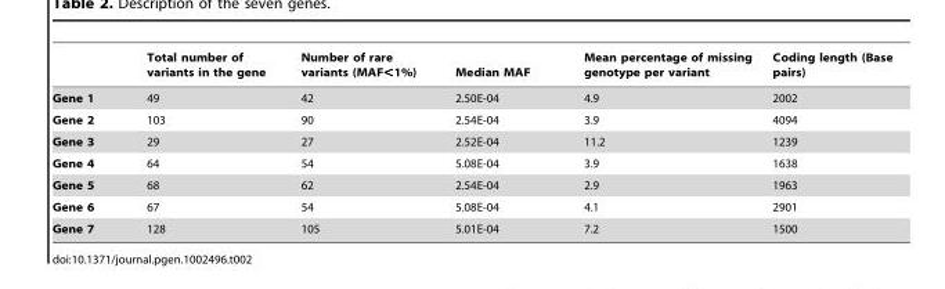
<table><thead><tr><td></td><td>Total number of variants in the gene</td><td>Number of rare variants (MAF&lt;1%)</td><td>Median MAF</td><td>Mean percentage of missing genotype per variant</td><td>Coding length (Base pairs)</td></tr></thead><tbody><tr><td>Gene 1</td><td>49</td><td>42</td><td>2.50E-04</td><td>4.9</td><td>2002</td></tr><tr><td>Gene 2</td><td>103</td><td>90</td><td>2.54E-04</td><td>3.9</td><td>4094</td></tr><tr><td>Gene 3</td><td>29</td><td>27</td><td>2.52E-04</td><td>11.2</td><td>1239</td></tr><tr><td>Gene 4</td><td>64</td><td>54</td><td>5.08E-04</td><td>3.9</td><td>1638</td></tr><tr><td>Gene 5</td><td>68</td><td>62</td><td>2.54E-04</td><td>2.9</td><td>1963</td></tr><tr><td>Gene 6</td><td>67</td><td>54</td><td>5.08E-04</td><td>4.1</td><td>2901</td></tr><tr><td>Gene 7</td><td>128</td><td>105</td><td>5.01E-04</td><td>7.2</td><td>1500</td></tr></tbody></table>